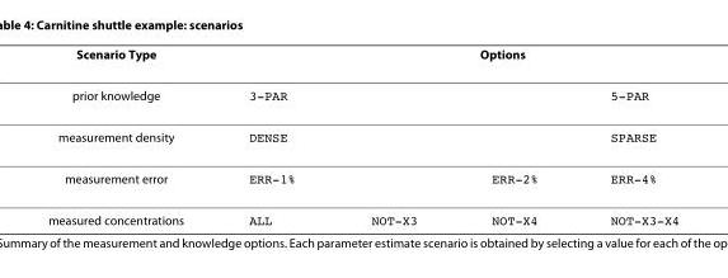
<table><thead><tr><td rowspan="2">Scenario Type prior knowledge</td><td colspan="4">Options</td></tr><tr><td>3-PAR</td><td></td><td></td><td>5-PAR</td></tr></thead><tbody><tr><td>measurement density</td><td>DENSE</td><td></td><td></td><td>SPARSE</td></tr><tr><td>measurement error</td><td>ERR-1%</td><td></td><td>ERR-2%</td><td>ERR-4%</td></tr><tr><td>measured concentrations</td><td>ALL</td><td>NOT-X3</td><td>NOT-X4</td><td>NOT-X3-X4</td></tr></tbody></table>